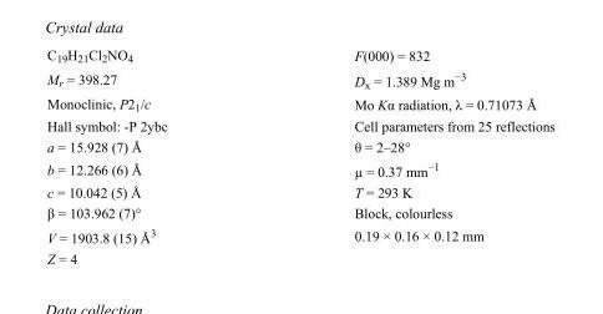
<table><tbody><tr><td>C<sub>19</sub>H<sub>21</sub>Cl<sub>2</sub>NO<sub>4</sub></td><td>F(000) = 832</td></tr><tr><td>M<sub>r</sub> = 398.27</td><td>D<sub>x</sub> = 1.389 Mg m<sup>−3</sup></td></tr><tr><td>Monoclinic, P2<sub>1</sub>/c</td><td>Mo Kα radiation, λ = 0.71073 Å</td></tr><tr><td>Hall symbol: -P 2ybc</td><td>Cell parameters from 25 reflections</td></tr><tr><td>a = 15.928 (7) Å</td><td>θ = 2–28°</td></tr><tr><td>b = 12.266 (6) Å</td><td>µ = 0.37 mm<sup>−1</sup></td></tr><tr><td>c = 10.042 (5) Å</td><td>T = 293 K</td></tr><tr><td>β = 103.962 (7)°</td><td>Block, colourless</td></tr><tr><td>V = 1903.8 (15) Å<sup>3</sup></td><td>0.19 × 0.16 × 0.12 mm</td></tr><tr><td>Z = 4</td><td></td></tr></tbody></table>